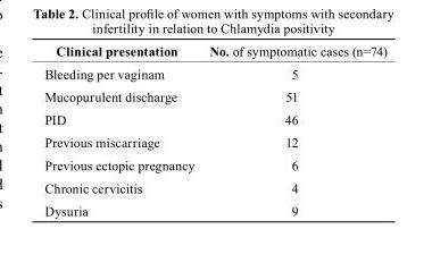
<table><thead><tr><td>clinical presentation</td><td>No. of symptomatic cases (n=74)</td></tr></thead><tbody><tr><td>Bleeding per vaginam</td><td>5</td></tr><tr><td>Mucopurulent discharge</td><td>51</td></tr><tr><td>PID</td><td>46</td></tr><tr><td>Previous miscarriage</td><td>12</td></tr><tr><td>Previous ectopic pregnancy</td><td>6</td></tr><tr><td>Chronic cervicitis</td><td>4</td></tr><tr><td>Dysuria</td><td>9</td></tr></tbody></table>